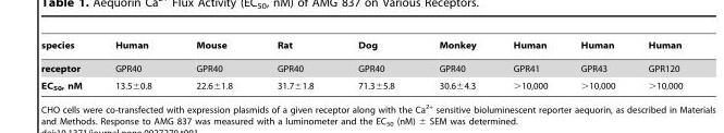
<table><thead><tr><td>species</td><td>Human</td><td>Mouse</td><td>Rat</td><td>Dog</td><td>Monkey</td><td>Human</td><td>Human</td><td>Human</td></tr></thead><tbody><tr><td>receptor</td><td>GPR40</td><td>GPR40</td><td>GPR40</td><td>GPR40</td><td>GPR40</td><td>GPR41</td><td>GPR43</td><td>GPR120</td></tr><tr><td>EC<sub>50</sub>, nM</td><td>13.5±0.8</td><td>22.6±1.8</td><td>31.7±1.8</td><td>71.3±5.8</td><td>30.6±4.3</td><td>&gt;10,000</td><td>&gt;10,000</td><td>&gt;10,000</td></tr></tbody></table>